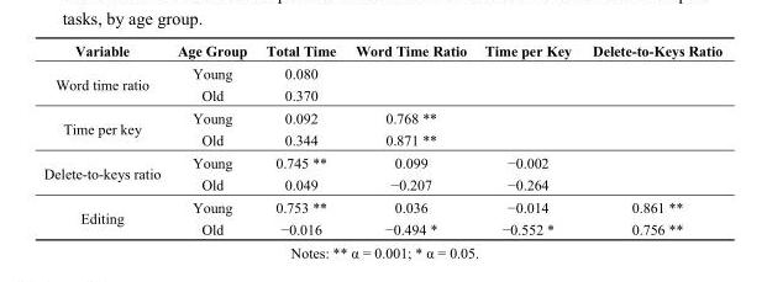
<table><thead><tr><td>Variable</td><td>Age Group</td><td>Total Time</td><td>Word Time Ratio</td><td>Time per Key</td><td>Delete-to-Keys Ratio</td></tr></thead><tbody><tr><td rowspan="2">Word time ratio</td><td>Young</td><td>0.080</td><td></td><td></td><td></td></tr><tr><td>Old</td><td>0.370</td><td></td><td></td><td></td></tr><tr><td rowspan="2">Time per key</td><td>Young</td><td>0.092</td><td>0.768 **</td><td></td><td></td></tr><tr><td>Old</td><td>0.344</td><td>0.871 **</td><td></td><td></td></tr><tr><td rowspan="2">Delete-to-keys ratio</td><td>Young</td><td>0.745 **</td><td>0.099</td><td>−0.002</td><td></td></tr><tr><td>Old</td><td>0.049</td><td>−0.207</td><td>−0.264</td><td></td></tr><tr><td rowspan="2">Editing</td><td>Young</td><td>0.753 **</td><td>0.036</td><td>−0.014</td><td>0.861 **</td></tr><tr><td>Old</td><td>−0.016</td><td>−0.494 *</td><td>−0.552 *</td><td>0.756 **</td></tr></tbody></table>